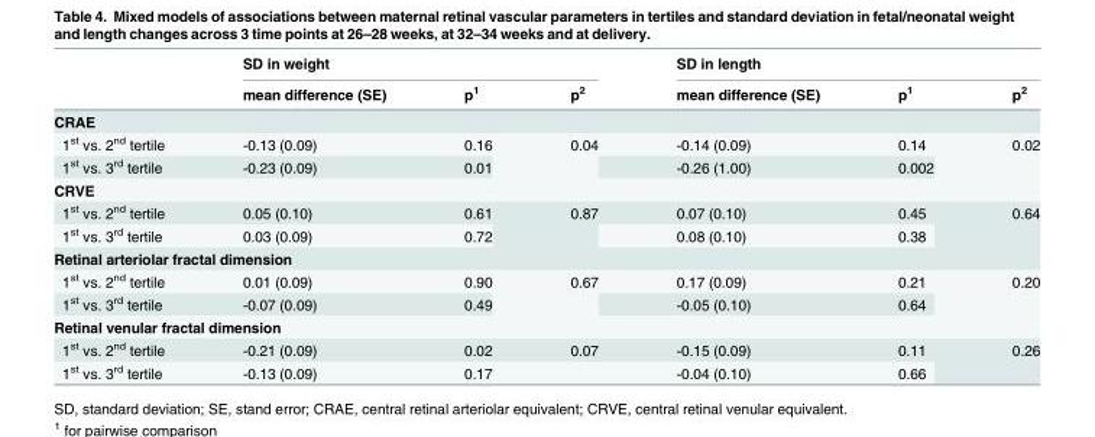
<table><thead><tr><td rowspan="2"></td><td colspan="3">SD in weight</td><td colspan="3">SD in length</td></tr><tr><td>mean difference (SE)</td><td>p<sup>1</sup></td><td>p<sup>2</sup></td><td>mean difference (SE)</td><td>p<sup>1</sup></td><td>p<sup>2</sup></td></tr></thead><tbody><tr><td colspan="7">CRAE</td></tr><tr><td>1<sup>st</sup> vs. 2<sup>nd</sup> tertile</td><td>-0.13 (0.09)</td><td>0.16</td><td rowspan="2">0.04</td><td>-0.14 (0.09)</td><td>0.14</td><td rowspan="2">0.02</td></tr><tr><td>1<sup>st</sup> vs. 3<sup>rd</sup> tertile</td><td>-0.23 (0.09)</td><td>0.01</td><td>-0.26 (1.00)</td><td>0.002</td></tr><tr><td colspan="7">CRVE</td></tr><tr><td>1<sup>st</sup> vs. 2<sup>nd</sup> tertile</td><td>0.05 (0.10)</td><td>0.61</td><td rowspan="2">0.87</td><td>0.07 (0.10)</td><td>0.45</td><td rowspan="2">0.64</td></tr><tr><td>1<sup>st</sup> vs. 3<sup>rd</sup> tertile</td><td>0.03 (0.09)</td><td>0.72</td><td>0.08 (0.10)</td><td>0.38</td></tr><tr><td colspan="7">Retinal arteriolar fractal dimension</td></tr><tr><td>1<sup>st</sup> vs. 2<sup>nd</sup> tertile</td><td>0.01 (0.09)</td><td>0.90</td><td rowspan="2">0.67</td><td>0.17 (0.09)</td><td>0.21</td><td rowspan="2">0.20</td></tr><tr><td>1<sup>st</sup> vs. 3<sup>rd</sup> tertile</td><td>-0.07 (0.09)</td><td>0.49</td><td>-0.05 (0.10)</td><td>0.64</td></tr><tr><td colspan="7">Retinal venular fractal dimension</td></tr><tr><td>1<sup>st</sup> vs. 2<sup>nd</sup> tertile</td><td>-0.21 (0.09)</td><td>0.02</td><td>0.07</td><td>-0.15 (0.09)</td><td>0.11</td><td rowspan="2">0.26</td></tr><tr><td>1<sup>st</sup> vs. 3<sup>rd</sup> tertile</td><td>-0.13 (0.09)</td><td>0.17</td><td></td><td>-0.04 (0.10)</td><td>0.66</td></tr></tbody></table>